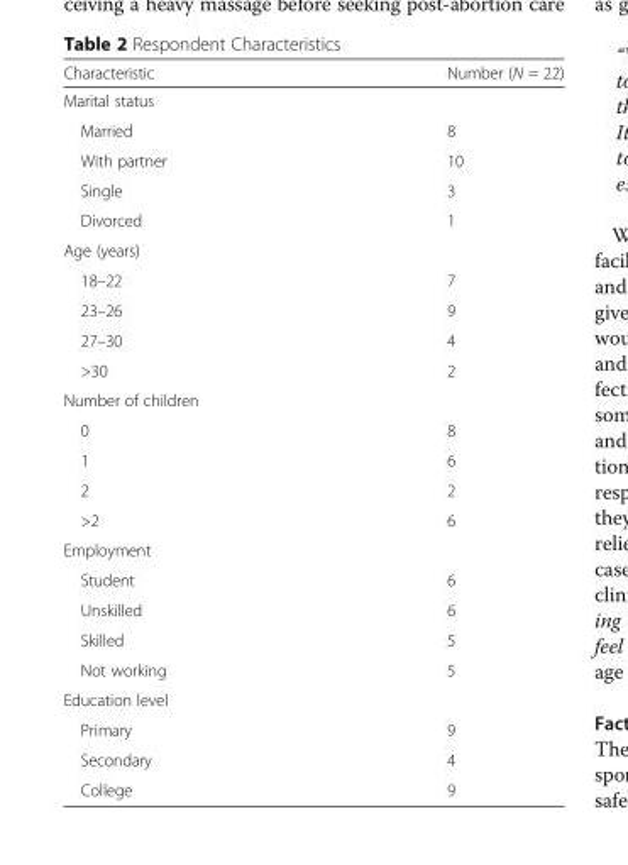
<table><thead><tr><td>Characteristic</td><td>Number (N = 22)</td></tr></thead><tbody><tr><td colspan="2">Marital status</td></tr><tr><td>Married</td><td>8</td></tr><tr><td>With partner</td><td>10</td></tr><tr><td>Single</td><td>3</td></tr><tr><td>Divorced</td><td>1</td></tr><tr><td colspan="2">Age (years)</td></tr><tr><td>18–22</td><td>7</td></tr><tr><td>23–26</td><td>9</td></tr><tr><td>27–30</td><td>4</td></tr><tr><td>&gt;30</td><td>2</td></tr><tr><td colspan="2">Number of children</td></tr><tr><td>0</td><td>8</td></tr><tr><td>1</td><td>6</td></tr><tr><td>2</td><td>2</td></tr><tr><td>&gt;2</td><td>6</td></tr><tr><td colspan="2">Employment</td></tr><tr><td>Student</td><td>6</td></tr><tr><td>Unskilled</td><td>6</td></tr><tr><td>Skilled</td><td>5</td></tr><tr><td>Not working</td><td>5</td></tr><tr><td colspan="2">Education level</td></tr><tr><td>Primary</td><td>9</td></tr><tr><td>Secondary</td><td>4</td></tr><tr><td>College</td><td>9</td></tr></tbody></table>